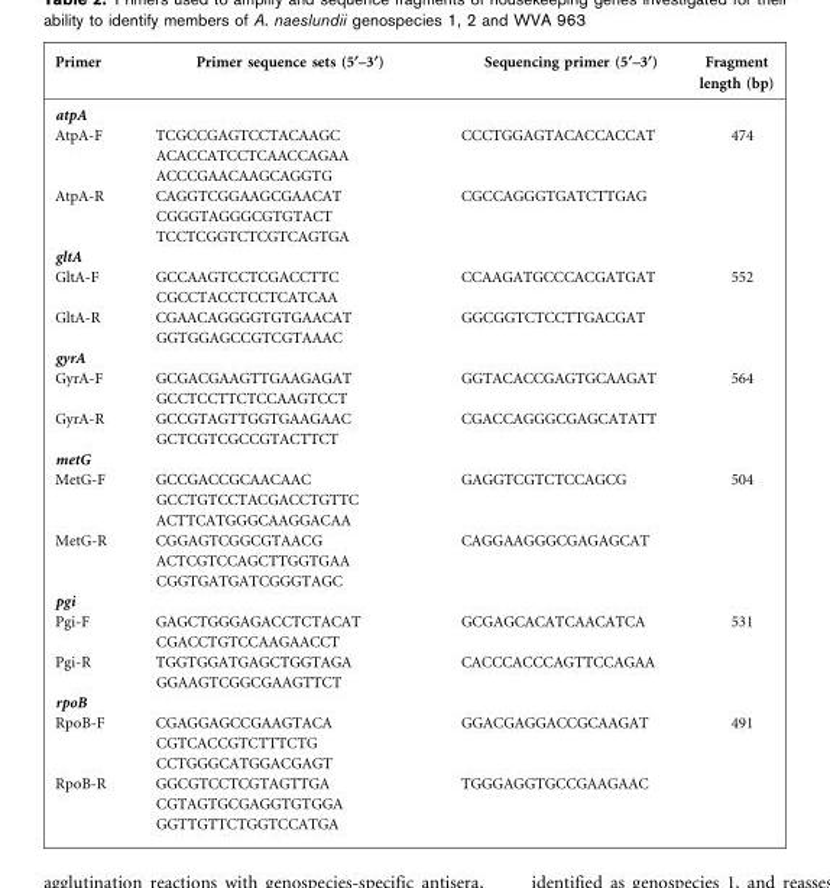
<table><thead><tr><td>Primer</td><td>Primer sequence sets (5§–3§)</td><td>Sequencing primer (5§–3§)</td><td>Fragment length (bp)</td></tr></thead><tbody><tr><td colspan="4">atpA</td></tr><tr><td>AtpA-F</td><td>TCGCCGAGTCCTACAAGC ACACCATCCTCAACCAGAA ACCCGAACAAGCAGGTG</td><td>CCCTGGAGTACACCACCAT</td><td>474</td></tr><tr><td>AtpA-R</td><td>CAGGTCGGAAGCGAACAT CGGGTAGGGCGTGTACT TCCTCGGTCTCGTCAGTGA</td><td>CGCCAGGGTGATCTTGAG</td><td></td></tr><tr><td colspan="4">gltA</td></tr><tr><td>GltA-F</td><td>GCCAAGTCCTCGACCTTC CGCCTACCTCCTCATCAA</td><td>CCAAGATGCCCACGATGAT</td><td>552</td></tr><tr><td>GltA-R</td><td>CGAACAGGGGTGTGAACAT GGTGGAGCCGTCGTAAAC</td><td>GGCGGTCTCCTTGACGAT</td><td></td></tr><tr><td colspan="4">gyrA</td></tr><tr><td>GyrA-F</td><td>GCGACGAAGTTGAAGAGAT GCCTCCTTCTCCAAGTCCT</td><td>GGTACACCGAGTGCAAGAT</td><td>564</td></tr><tr><td>GyrA-R</td><td>GCCGTAGTTGGTGAAGAAC GCTCGTCGCCGTACTTCT</td><td>CGACCAGGGCGAGCATATT</td><td></td></tr><tr><td colspan="4">metG</td></tr><tr><td>MetG-F</td><td>GCCGACCGCAACAAC GCCTGTCCTACGACCTGTTC ACTTCATGGGCAAGGACAA</td><td>GAGGTCGTCTCCAGCG</td><td>504</td></tr><tr><td>MetG-R</td><td>CGGAGTCGGCGTAACG ACTCGTCCAGCTTGGTGAA CGGTGATGATCGGGTAGC</td><td>CAGGAAGGGCGAGAGCAT</td><td></td></tr><tr><td colspan="4">pgi</td></tr><tr><td>Pgi-F</td><td>GAGCTGGGAGACCTCTACAT CGACCTGTCCAAGAACCT</td><td>GCGAGCACATCAACATCA</td><td>531</td></tr><tr><td>Pgi-R</td><td>TGGTGGATGAGCTGGTAGA GGAAGTCGGCGAAGTTCT</td><td>CACCCACCCAGTTCCAGAA</td><td></td></tr><tr><td colspan="4">rpoB</td></tr><tr><td>RpoB-F</td><td>CGAGGAGCCGAAGTACA CGTCACCGTCTTTCTG CCTGGGCATGGACGAGT</td><td>GGACGAGGACCGCAAGAT</td><td>491</td></tr><tr><td>RpoB-R</td><td>GGCGTCCTCGTAGTTGA CGTAGTGCGAGGTGTGGA GGTTGTTCTGGTCCATGA</td><td>TGGGAGGTGCCGAAGAAC</td><td></td></tr></tbody></table>